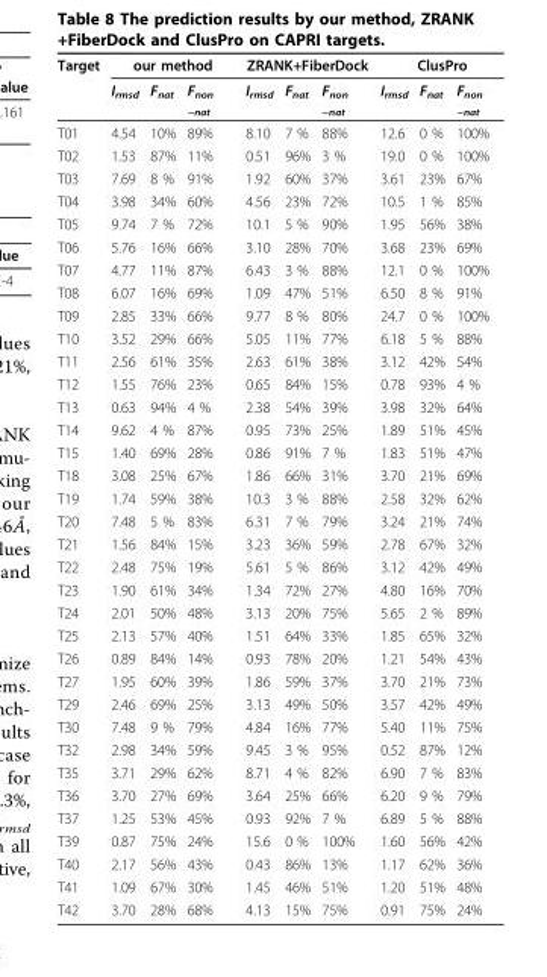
<table><thead><tr><td rowspan="2">Target</td><td colspan="3">our method</td><td colspan="3">ZRANK+FiberDock</td><td colspan="3">ClusPro</td></tr><tr><td>I<sub>rmsd</sub></td><td>F<sub>nat</sub></td><td>F<sub>non −nat</sub></td><td>I<sub>rmsd</sub></td><td>F<sub>nat</sub></td><td>F<sub>non −nat</sub></td><td>I<sub>rmsd</sub></td><td>F<sub>nat</sub></td><td>F<sub>non −nat</sub></td></tr></thead><tbody><tr><td>T01</td><td>4.54</td><td>10%</td><td>89%</td><td>8.10</td><td>7 %</td><td>88%</td><td>12.6</td><td>0 %</td><td>100%</td></tr><tr><td>T02</td><td>1.53</td><td>87%</td><td>11%</td><td>0.51</td><td>96%</td><td>3 %</td><td>19.0</td><td>0 %</td><td>100%</td></tr><tr><td>T03</td><td>7.69</td><td>8 %</td><td>91%</td><td>1.92</td><td>60%</td><td>37%</td><td>3.61</td><td>23%</td><td>67%</td></tr><tr><td>T04</td><td>3.98</td><td>34%</td><td>60%</td><td>4.56</td><td>23%</td><td>72%</td><td>10.5</td><td>1 %</td><td>85%</td></tr><tr><td>T05</td><td>9.74</td><td>7 %</td><td>72%</td><td>10.1</td><td>5 %</td><td>90%</td><td>1.95</td><td>56%</td><td>38%</td></tr><tr><td>T06</td><td>5.76</td><td>16%</td><td>66%</td><td>3.10</td><td>28%</td><td>70%</td><td>3.68</td><td>23%</td><td>69%</td></tr><tr><td>T07</td><td>4.77</td><td>11%</td><td>87%</td><td>6.43</td><td>3 %</td><td>88%</td><td>12.1</td><td>0 %</td><td>100%</td></tr><tr><td>T08</td><td>6.07</td><td>16%</td><td>69%</td><td>1.09</td><td>47%</td><td>51%</td><td>6.50</td><td>8 %</td><td>91%</td></tr><tr><td>T09</td><td>2.85</td><td>33%</td><td>66%</td><td>9.77</td><td>8 %</td><td>80%</td><td>24.7</td><td>0 %</td><td>100%</td></tr><tr><td>T10</td><td>3.52</td><td>29%</td><td>66%</td><td>5.05</td><td>11%</td><td>77%</td><td>6.18</td><td>5 %</td><td>88%</td></tr><tr><td>T11</td><td>2.56</td><td>61%</td><td>35%</td><td>2.63</td><td>61%</td><td>38%</td><td>3.12</td><td>42%</td><td>54%</td></tr><tr><td>T12</td><td>1.55</td><td>76%</td><td>23%</td><td>0.65</td><td>84%</td><td>15%</td><td>0.78</td><td>93%</td><td>4 %</td></tr><tr><td>T13</td><td>0.63</td><td>94%</td><td>4 %</td><td>2.38</td><td>54%</td><td>39%</td><td>3.98</td><td>32%</td><td>64%</td></tr><tr><td>T14</td><td>9.62</td><td>4 %</td><td>87%</td><td>0.95</td><td>73%</td><td>25%</td><td>1.89</td><td>51%</td><td>45%</td></tr><tr><td>T15</td><td>1.40</td><td>69%</td><td>28%</td><td>0.86</td><td>91%</td><td>7 %</td><td>1.83</td><td>51%</td><td>47%</td></tr><tr><td>T18</td><td>3.08</td><td>25%</td><td>67%</td><td>1.86</td><td>66%</td><td>31%</td><td>3.70</td><td>21%</td><td>69%</td></tr><tr><td>T19</td><td>1.74</td><td>59%</td><td>38%</td><td>10.3</td><td>3 %</td><td>88%</td><td>2.58</td><td>32%</td><td>62%</td></tr><tr><td>T20</td><td>7.48</td><td>5 %</td><td>83%</td><td>6.31</td><td>7 %</td><td>79%</td><td>3.24</td><td>21%</td><td>74%</td></tr><tr><td>T21</td><td>1.56</td><td>84%</td><td>15%</td><td>3.23</td><td>36%</td><td>59%</td><td>2.78</td><td>67%</td><td>32%</td></tr><tr><td>T22</td><td>2.48</td><td>75%</td><td>19%</td><td>5.61</td><td>5 %</td><td>86%</td><td>3.12</td><td>42%</td><td>49%</td></tr><tr><td>T23</td><td>1.90</td><td>61%</td><td>34%</td><td>1.34</td><td>72%</td><td>27%</td><td>4.80</td><td>16%</td><td>70%</td></tr><tr><td>T24</td><td>2.01</td><td>50%</td><td>48%</td><td>3.13</td><td>20%</td><td>75%</td><td>5.65</td><td>2 %</td><td>89%</td></tr><tr><td>T25</td><td>2.13</td><td>57%</td><td>40%</td><td>1.51</td><td>64%</td><td>33%</td><td>1.85</td><td>65%</td><td>32%</td></tr><tr><td>T26</td><td>0.89</td><td>84%</td><td>14%</td><td>0.93</td><td>78%</td><td>20%</td><td>1.21</td><td>54%</td><td>43%</td></tr><tr><td>T27</td><td>1.95</td><td>60%</td><td>39%</td><td>1.86</td><td>59%</td><td>37%</td><td>3.70</td><td>21%</td><td>73%</td></tr><tr><td>T29</td><td>2.46</td><td>69%</td><td>25%</td><td>3.13</td><td>49%</td><td>50%</td><td>3.57</td><td>42%</td><td>49%</td></tr><tr><td>T30</td><td>7.48</td><td>9 %</td><td>79%</td><td>4.84</td><td>16%</td><td>77%</td><td>5.40</td><td>11%</td><td>75%</td></tr><tr><td>T32</td><td>2.98</td><td>34%</td><td>59%</td><td>9.45</td><td>3 %</td><td>95%</td><td>0.52</td><td>87%</td><td>12%</td></tr><tr><td>T35</td><td>3.71</td><td>29%</td><td>62%</td><td>8.71</td><td>4 %</td><td>82%</td><td>6.90</td><td>7 %</td><td>83%</td></tr><tr><td>T36</td><td>3.70</td><td>27%</td><td>69%</td><td>3.64</td><td>25%</td><td>66%</td><td>6.20</td><td>9 %</td><td>79%</td></tr><tr><td>T37</td><td>1.25</td><td>53%</td><td>45%</td><td>0.93</td><td>92%</td><td>7 %</td><td>6.89</td><td>5 %</td><td>88%</td></tr><tr><td>T39</td><td>0.87</td><td>75%</td><td>24%</td><td>15.6</td><td>0 %</td><td>100%</td><td>1.60</td><td>56%</td><td>42%</td></tr><tr><td>T40</td><td>2.17</td><td>56%</td><td>43%</td><td>0.43</td><td>86%</td><td>13%</td><td>1.17</td><td>62%</td><td>36%</td></tr><tr><td>T41</td><td>1.09</td><td>67%</td><td>30%</td><td>1.45</td><td>46%</td><td>51%</td><td>1.20</td><td>51%</td><td>48%</td></tr><tr><td>T42</td><td>3.70</td><td>28%</td><td>68%</td><td>4.13</td><td>15%</td><td>75%</td><td>0.91</td><td>75%</td><td>24%</td></tr></tbody></table>